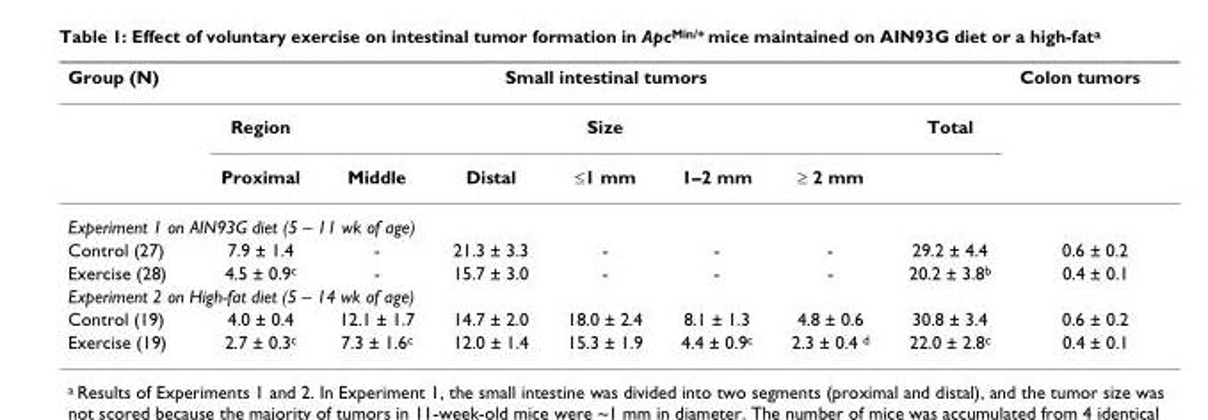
<table><thead><tr><td rowspan="2">Group (N)</td><td colspan="7">Small intestinal tumors</td><td rowspan="2">Colon tumors</td></tr><tr><td>Region</td><td></td><td></td><td>Size</td><td></td><td></td><td>Total</td></tr></thead><tbody><tr><td></td><td>Proximal</td><td>Middle</td><td>Distal</td><td>≤1 mm</td><td>1–2 mm</td><td>≥ 2 mm</td><td></td><td></td></tr><tr><td colspan="9">Experiment 1 on AIN93G diet (5 – 11 wk of age)</td></tr><tr><td>Control (27)</td><td>7.9 ± 1.4</td><td>-</td><td>21.3 ± 3.3</td><td>-</td><td>-</td><td>-</td><td>29.2 ± 4.4</td><td>0.6 ± 0.2</td></tr><tr><td>Exercise (28)</td><td>4.5 ± 0.9<sup>c</sup></td><td>-</td><td>15.7 ± 3.0</td><td>-</td><td>-</td><td>-</td><td>20.2 ± 3.8<sup>b</sup></td><td>0.4 ± 0.1</td></tr><tr><td colspan="9">Experiment 2 on High-fat diet (5 – 14 wk of age)</td></tr><tr><td>Control (19)</td><td>4.0 ± 0.4</td><td>12.1 ± 1.7</td><td>14.7 ± 2.0</td><td>18.0 ± 2.4</td><td>8.1 ± 1.3</td><td>4.8 ± 0.6</td><td>30.8 ± 3.4</td><td>0.6 ± 0.2</td></tr><tr><td>Exercise (19)</td><td>2.7 ± 0.3<sup>c</sup></td><td>7.3 ± 1.6<sup>c</sup></td><td>12.0 ± 1.4</td><td>15.3 ± 1.9</td><td>4.4 ± 0.9<sup>c</sup></td><td>2.3 ± 0.4 <sup>d</sup></td><td>22.0 ± 2.8<sup>c</sup></td><td>0.4 ± 0.1</td></tr></tbody></table>